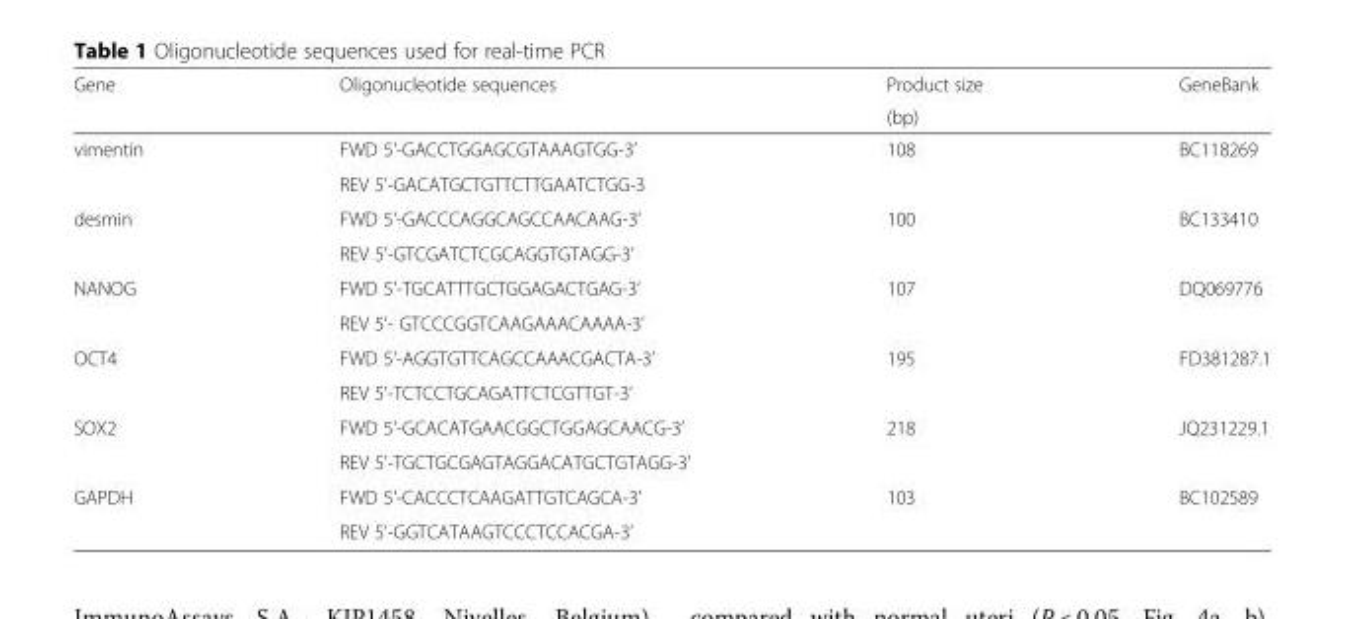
<table><thead><tr><td rowspan="2">Gene</td><td rowspan="2">Oligonucleotide sequences</td><td rowspan="2">Product size (bp)</td><td rowspan="2">GeneBank</td></tr><tr></tr></thead><tbody><tr><td rowspan="2">vimentin</td><td>FWD 5’-GACCTGGAGCGTAAAGTGG-3’</td><td rowspan="2">108</td><td rowspan="2">BC118269</td></tr><tr><td>REV 5’-GACATGCTGTTCTTGAATCTGG-3</td></tr><tr><td rowspan="2">desmin</td><td>FWD 5’-GACCCAGGCAGCCAACAAG-3’</td><td rowspan="2">100</td><td rowspan="2">BC133410</td></tr><tr><td>REV 5’-GTCGATCTCGCAGGTGTAGG-3’</td></tr><tr><td rowspan="2">NANOG</td><td>FWD 5’-TGCATTTGCTGGAGACTGAG-3’</td><td rowspan="2">107</td><td rowspan="2">DQ069776</td></tr><tr><td>REV 5’- GTCCCGGTCAAGAAACAAAA-3’</td></tr><tr><td rowspan="2">OCT4</td><td>FWD 5’-AGGTGTTCAGCCAAACGACTA-3’</td><td rowspan="2">195</td><td rowspan="2">FD381287.1</td></tr><tr><td>REV 5’-TCTCCTGCAGATTCTCGTTGT-3’</td></tr><tr><td rowspan="2">SOX2</td><td>FWD 5’-GCACATGAACGGCTGGAGCAACG-3’</td><td rowspan="2">218</td><td rowspan="2">JQ231229.1</td></tr><tr><td>REV 5’-TGCTGCGAGTAGGACATGCTGTAGG-3’</td></tr><tr><td rowspan="2">GAPDH</td><td>FWD 5’-CACCCTCAAGATTGTCAGCA-3’</td><td rowspan="2">103</td><td rowspan="2">BC102589</td></tr><tr><td>REV 5’-GGTCATAAGTCCCTCCACGA-3’</td></tr></tbody></table>